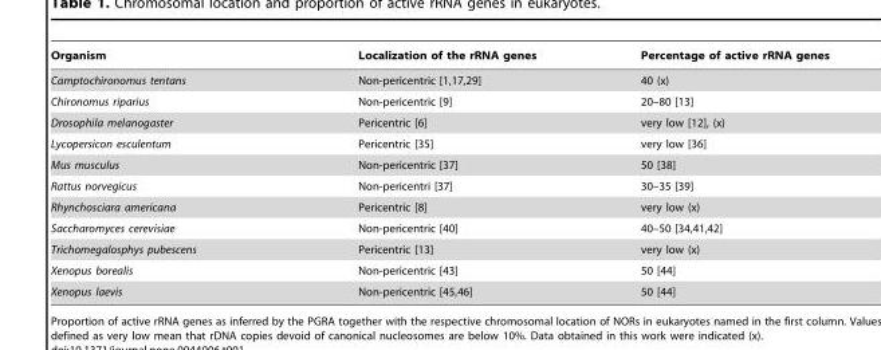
<table><thead><tr><td>Organism</td><td>Localization of the rRNA genes</td><td>Percentage of active rRNA genes</td></tr></thead><tbody><tr><td>Camptochironomus tentans</td><td>Non-pericentric [1,17,29]</td><td>40 (x)</td></tr><tr><td>Chironomus riparius</td><td>Non-pericentric [9]</td><td>20–80 [13]</td></tr><tr><td>Drosophila melanogaster</td><td>Pericentric [6]</td><td>very low [12], (x)</td></tr><tr><td>Lycopersicon esculentum</td><td>Pericentric [35]</td><td>very low [36]</td></tr><tr><td>Mus musculus</td><td>Non-pericentric [37]</td><td>50 [38]</td></tr><tr><td>Rattus norvegicus</td><td>Non-pericentri [37]</td><td>30–35 [39]</td></tr><tr><td>Rhynchosciara americana</td><td>Pericentric [8]</td><td>very low (x)</td></tr><tr><td>Saccharomyces cerevisiae</td><td>Non-pericentric [40]</td><td>40–50 [34,41,42]</td></tr><tr><td>Trichomegalosphys pubescens</td><td>Pericentric [13]</td><td>very low (x)</td></tr><tr><td>Xenopus borealis</td><td>Non-pericentric [43]</td><td>50 [44]</td></tr><tr><td>Xenopus laevis</td><td>Non-pericentric [45,46]</td><td>50 [44]</td></tr></tbody></table>